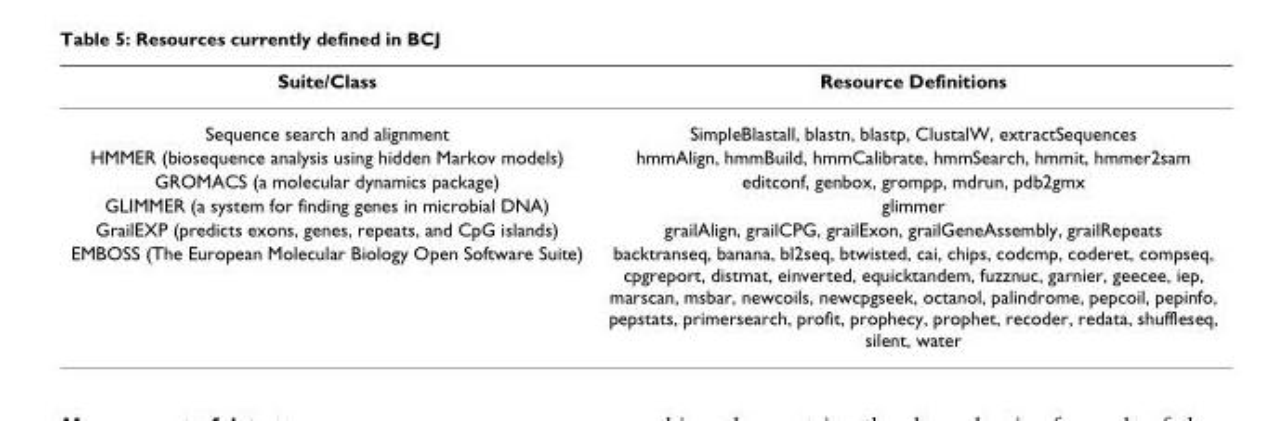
<table><thead><tr><td>Suite/Class</td><td>Resource Definitions</td></tr></thead><tbody><tr><td>Sequence search and alignment</td><td>SimpleBlastall, blastn, blastp, ClustalW, extractSequences</td></tr><tr><td>HMMER (biosequence analysis using hidden Markov models)</td><td>hmmAlign, hmmBuild, hmmCalibrate, hmmSearch, hmmit, hmmer2sam</td></tr><tr><td>GROMACS (a molecular dynamics package)</td><td>editconf, genbox, grompp, mdrun, pdb2gmx</td></tr><tr><td>GLIMMER (a system for finding genes in microbial DNA)</td><td>glimmer</td></tr><tr><td>GrailEXP (predicts exons, genes, repeats, and CpG islands)</td><td>grailAlign, grailCPG, grailExon, grailGeneAssembly, grailRepeats</td></tr><tr><td>EMBOSS (The European Molecular Biology Open Software Suite)</td><td>backtranseq, banana, bl2seq, btwisted, cai, chips, codcmp, coderet, compseq, cpgreport, distmat, einverted, equicktandem, fuzznuc, garnier, geecee, iep, marscan, msbar, newcoils, newcpgseek, octanol, palindrome, pepcoil, pepinfo, pepstats, primersearch, profit, prophecy, prophet, recoder, redata, shuffleseq, silent, water</td></tr></tbody></table>